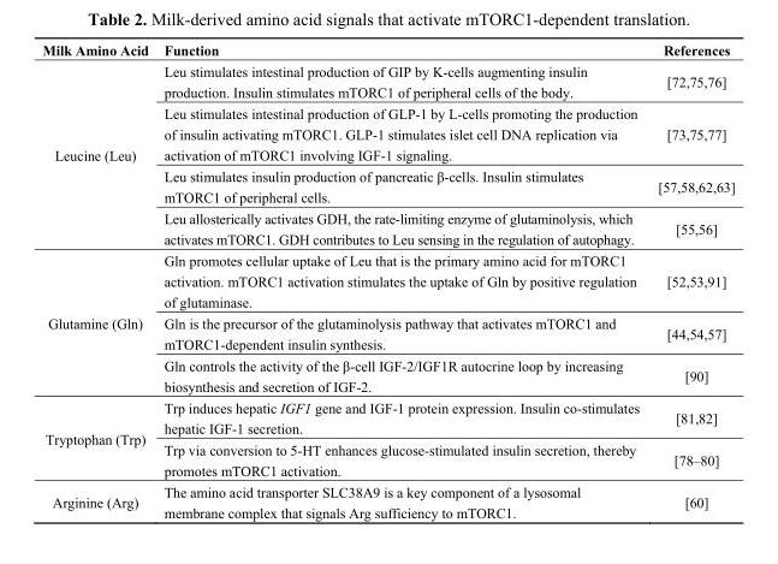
<table><thead><tr><td>Milk Amino Acid</td><td>Function</td><td>References</td></tr></thead><tbody><tr><td rowspan="4">Leucine (Leu)</td><td>Leu stimulates intestinal production of GIP by K-cells augmenting insulin production. Insulin stimulates mTORC1 of peripheral cells of the body.</td><td>[72,75,76]</td></tr><tr><td>Leu stimulates intestinal production of GLP-1 by L-cells promoting the production of insulin activating mTORC1. GLP-1 stimulates islet cell DNA replication via activation of mTORC1 involving IGF-1 signaling.</td><td>[73,75,77]</td></tr><tr><td>Leu stimulates insulin production of pancreatic β-cells. Insulin stimulates mTORC1 of peripheral cells.</td><td>[57,58,62,63]</td></tr><tr><td>Leu allosterically activates GDH, the rate-limiting enzyme of glutaminolysis, which activates mTORC1. GDH contributes to Leu sensing in the regulation of autophagy.</td><td>[55,56]</td></tr><tr><td rowspan="3">Glutamine (Gln)</td><td>Gln promotes cellular uptake of Leu that is the primary amino acid for mTORC1 activation. mTORC1 activation stimulates the uptake of Gln by positive regulation of glutaminase.</td><td>[52,53,91]</td></tr><tr><td>Gln is the precursor of the glutaminolysis pathway that activates mTORC1 and mTORC1-dependent insulin synthesis.</td><td>[44,54,57]</td></tr><tr><td>Gln controls the activity of the β-cell IGF-2/IGF1R autocrine loop by increasing biosynthesis and secretion of IGF-2.</td><td>[90]</td></tr><tr><td rowspan="2">Tryptophan (Trp)</td><td>Trp induces hepatic IGF1 gene and IGF-1 protein expression. Insulin co-stimulates hepatic IGF-1 secretion.</td><td>[81,82]</td></tr><tr><td>Trp via conversion to 5-HT enhances glucose-stimulated insulin secretion, thereby promotes mTORC1 activation.</td><td>[78–80]</td></tr><tr><td>Arginine (Arg)</td><td>The amino acid transporter SLC38A9 is a key component of a lysosomal membrane complex that signals Arg sufficiency to mTORC1.</td><td>[60]</td></tr></tbody></table>